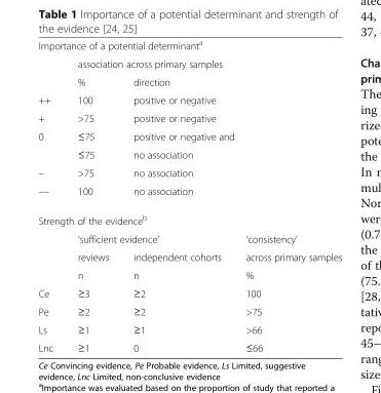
<table><tbody><tr><td colspan="4">Importance of a potential determinant<sup>a</sup></td></tr><tr><td></td><td colspan="3">association across primary samples</td></tr><tr><td></td><td>%</td><td colspan="2">direction</td></tr><tr><td>++</td><td>100</td><td colspan="2">positive or negative</td></tr><tr><td>+</td><td>&gt;75</td><td colspan="2">positive or negative</td></tr><tr><td rowspan="2">0</td><td>≤75</td><td colspan="2">positive or negative and</td></tr><tr><td>≤75</td><td colspan="2">no association</td></tr><tr><td>–</td><td>&gt;75</td><td colspan="2">no association</td></tr><tr><td>––</td><td>100</td><td colspan="2">no association</td></tr><tr><td colspan="4">Strength of the evidence<sup>b</sup></td></tr><tr><td></td><td colspan="2">‘sufficient evidence’</td><td>‘consistency’</td></tr><tr><td></td><td>reviews</td><td>independent cohorts</td><td>across primary samples</td></tr><tr><td></td><td>n</td><td>n</td><td>%</td></tr><tr><td>Ce</td><td>≥3</td><td>≥2</td><td>100</td></tr><tr><td>Pe</td><td>≥2</td><td>≥2</td><td>&gt;75</td></tr><tr><td>Ls</td><td>≥1</td><td>≥1</td><td>&gt;66</td></tr><tr><td>Lnc</td><td>≥1</td><td>0</td><td>≤66</td></tr></tbody></table>